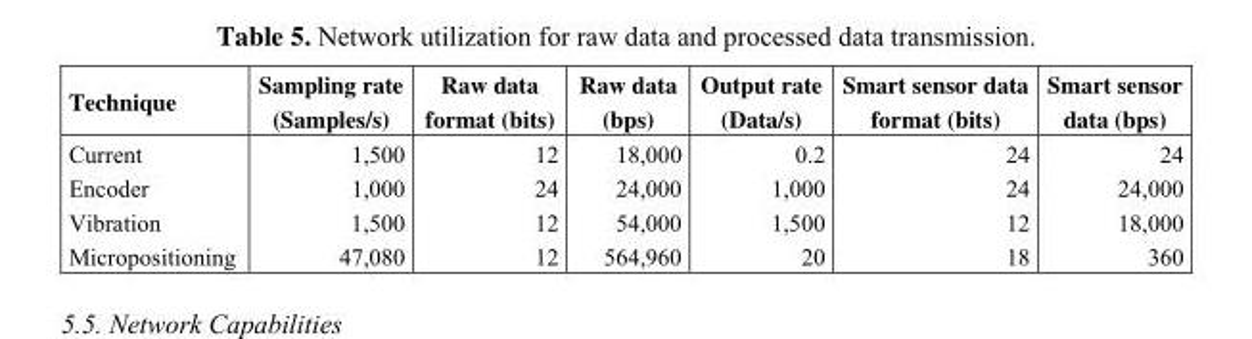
<table><thead><tr><td>Technique</td><td>Sampling rate (Samples/s)</td><td>Raw data format (bits)</td><td>Raw data (bps)</td><td>Output rate (Data/s)</td><td>Smart sensor data format (bits)</td><td>Smart sensor data (bps)</td></tr></thead><tbody><tr><td>Current</td><td>1,500</td><td>12</td><td>18,000</td><td>0.2</td><td>24</td><td>24</td></tr><tr><td>Encoder</td><td>1,000</td><td>24</td><td>24,000</td><td>1,000</td><td>24</td><td>24,000</td></tr><tr><td>Vibration</td><td>1,500</td><td>12</td><td>54,000</td><td>1,500</td><td>12</td><td>18,000</td></tr><tr><td>Micropositioning</td><td>47,080</td><td>12</td><td>564,960</td><td>20</td><td>18</td><td>360</td></tr></tbody></table>